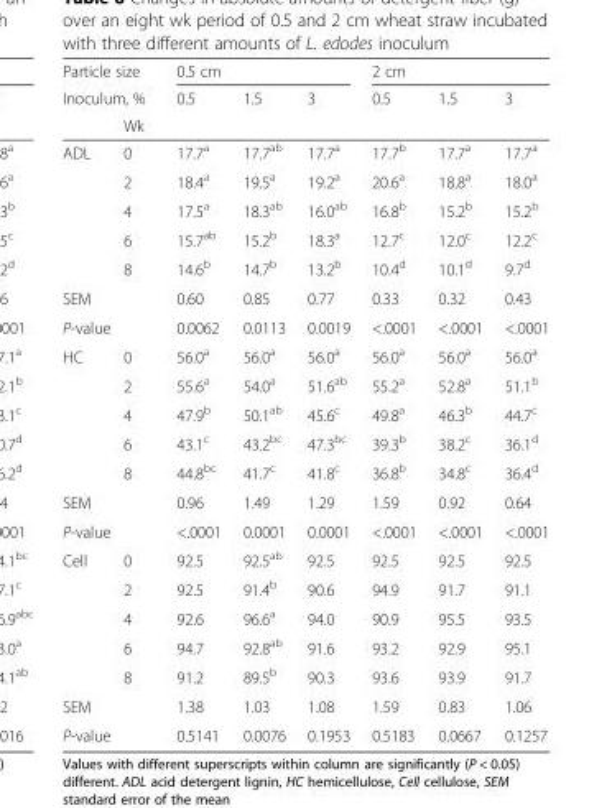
<table><thead><tr><td rowspan="2" colspan="2">Particle size Inoculum, %</td><td colspan="3">0.5 cm</td><td colspan="3">2 cm</td></tr><tr><td rowspan="2">0.5</td><td rowspan="2">1.5</td><td rowspan="2">3</td><td rowspan="2">0.5</td><td rowspan="2">1.5</td><td rowspan="2">3</td></tr><tr><td></td><td>Wk</td></tr></thead><tbody><tr><td rowspan="5">ADL</td><td>0</td><td>17.7<sup>a</sup></td><td>17.7<sup>ab</sup></td><td>17.7<sup>a</sup></td><td>17.7<sup>b</sup></td><td>17.7<sup>a</sup></td><td>17.7<sup>a</sup></td></tr><tr><td>2</td><td>18.4<sup>a</sup></td><td>19.5<sup>a</sup></td><td>19.2<sup>a</sup></td><td>20.6<sup>a</sup></td><td>18.8<sup>a</sup></td><td>18.0<sup>a</sup></td></tr><tr><td>4</td><td>17.5<sup>a</sup></td><td>18.3<sup>ab</sup></td><td>16.0<sup>ab</sup></td><td>16.8<sup>b</sup></td><td>15.2<sup>b</sup></td><td>15.2<sup>b</sup></td></tr><tr><td>6</td><td>15.7<sup>ab</sup></td><td>15.2<sup>b</sup></td><td>18.3<sup>a</sup></td><td>12.7<sup>c</sup></td><td>12.0<sup>c</sup></td><td>12.2<sup>c</sup></td></tr><tr><td>8</td><td>14.6<sup>b</sup></td><td>14.7<sup>b</sup></td><td>13.2<sup>b</sup></td><td>10.4<sup>d</sup></td><td>10.1<sup>d</sup></td><td>9.7<sup>d</sup></td></tr><tr><td colspan="2">SEM</td><td>0.60</td><td>0.85</td><td>0.77</td><td>0.33</td><td>0.32</td><td>0.43</td></tr><tr><td colspan="2">P-value</td><td>0.0062</td><td>0.0113</td><td>0.0019</td><td>&lt;.0001</td><td>&lt;.0001</td><td>&lt;.0001</td></tr><tr><td rowspan="5">HC</td><td>0</td><td>56.0<sup>a</sup></td><td>56.0<sup>a</sup></td><td>56.0<sup>a</sup></td><td>56.0<sup>a</sup></td><td>56.0<sup>a</sup></td><td>56.0<sup>a</sup></td></tr><tr><td>2</td><td>55.6<sup>a</sup></td><td>54.0<sup>a</sup></td><td>51.6<sup>ab</sup></td><td>55.2<sup>a</sup></td><td>52.8<sup>a</sup></td><td>51.1<sup>b</sup></td></tr><tr><td>4</td><td>47.9<sup>b</sup></td><td>50.1<sup>ab</sup></td><td>45.6<sup>c</sup></td><td>49.8<sup>a</sup></td><td>46.3<sup>b</sup></td><td>44.7<sup>c</sup></td></tr><tr><td>6</td><td>43.1<sup>c</sup></td><td>43.2<sup>bc</sup></td><td>47.3<sup>bc</sup></td><td>39.3<sup>b</sup></td><td>38.2<sup>c</sup></td><td>36.1<sup>d</sup></td></tr><tr><td>8</td><td>44.8<sup>bc</sup></td><td>41.7<sup>c</sup></td><td>41.8<sup>c</sup></td><td>36.8<sup>b</sup></td><td>34.8<sup>c</sup></td><td>36.4<sup>d</sup></td></tr><tr><td colspan="2">SEM</td><td>0.96</td><td>1.49</td><td>1.29</td><td>1.59</td><td>0.92</td><td>0.64</td></tr><tr><td colspan="2">P-value</td><td>&lt;.0001</td><td>0.0001</td><td>0.0001</td><td>&lt;.0001</td><td>&lt;.0001</td><td>&lt;.0001</td></tr><tr><td rowspan="5">Cell</td><td>0</td><td>92.5</td><td>92.5<sup>ab</sup></td><td>92.5</td><td>92.5</td><td>92.5</td><td>92.5</td></tr><tr><td>2</td><td>92.5</td><td>91.4<sup>b</sup></td><td>90.6</td><td>94.9</td><td>91.7</td><td>91.1</td></tr><tr><td>4</td><td>92.6</td><td>96.6<sup>a</sup></td><td>94.0</td><td>90.9</td><td>95.5</td><td>93.5</td></tr><tr><td>6</td><td>94.7</td><td>92.8<sup>ab</sup></td><td>91.6</td><td>93.2</td><td>92.9</td><td>95.1</td></tr><tr><td>8</td><td>91.2</td><td>89.5<sup>b</sup></td><td>90.3</td><td>93.6</td><td>93.9</td><td>91.7</td></tr><tr><td colspan="2">SEM</td><td>1.38</td><td>1.03</td><td>1.08</td><td>1.59</td><td>0.83</td><td>1.06</td></tr><tr><td colspan="2">P-value</td><td>0.5141</td><td>0.0076</td><td>0.1953</td><td>0.5183</td><td>0.0667</td><td>0.1257</td></tr></tbody></table>